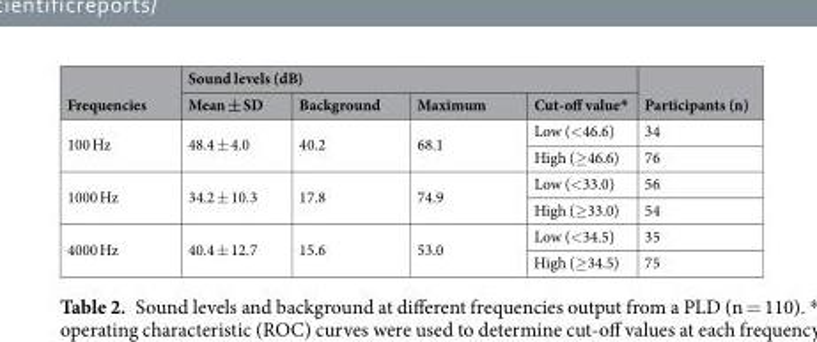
<table><thead><tr><td rowspan="2">Frequencies</td><td colspan="4">Sound levels (dB)</td><td rowspan="2">Participants (n)</td></tr><tr><td>Mean ± SD</td><td>Background</td><td>Maximum</td><td>Cut-off value*</td></tr></thead><tbody><tr><td rowspan="2">100 Hz</td><td rowspan="2">48.4 ± 4.0</td><td rowspan="2">40.2</td><td rowspan="2">68.1</td><td>Low (&lt;46.6)</td><td>34</td></tr><tr><td>High (≥46.6)</td><td>76</td></tr><tr><td rowspan="2">1000 Hz</td><td rowspan="2">34.2 ± 10.3</td><td rowspan="2">17.8</td><td rowspan="2">74.9</td><td>Low (&lt;33.0)</td><td>56</td></tr><tr><td>High (≥33.0)</td><td>54</td></tr><tr><td rowspan="2">4000 Hz</td><td rowspan="2">40.4 ± 12.7</td><td rowspan="2">15.6</td><td rowspan="2">53.0</td><td>Low (&lt;34.5)</td><td>35</td></tr><tr><td>High (≥34.5)</td><td>75</td></tr></tbody></table>